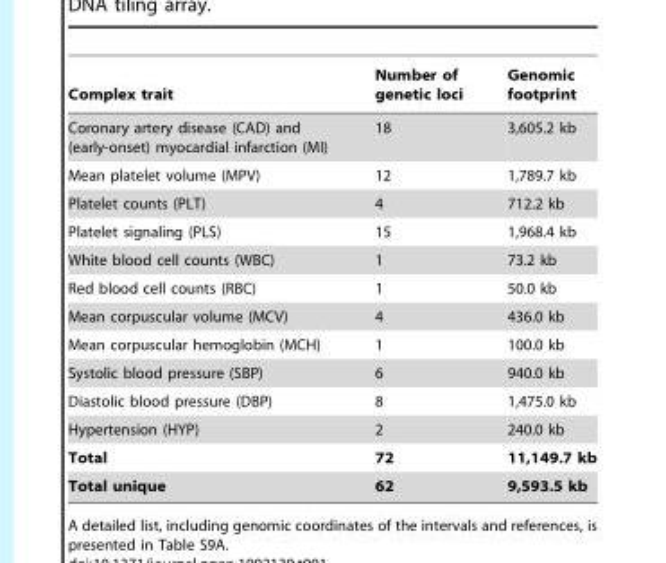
<table><thead><tr><td>Complex trait</td><td>Number of genetic loci</td><td>Genomic footprint</td></tr></thead><tbody><tr><td>Coronary artery disease (CAD) and (early-onset) myocardial infarction (MI)</td><td>18</td><td>3,605.2 kb</td></tr><tr><td>Mean platelet volume (MPV)</td><td>12</td><td>1,789.7 kb</td></tr><tr><td>Platelet counts (PLT)</td><td>4</td><td>712.2 kb</td></tr><tr><td>Platelet signaling (PLS)</td><td>15</td><td>1,968.4 kb</td></tr><tr><td>White blood cell counts (WBC)</td><td>1</td><td>73.2 kb</td></tr><tr><td>Red blood cell counts (RBC)</td><td>1</td><td>50.0 kb</td></tr><tr><td>Mean corpuscular volume (MCV)</td><td>4</td><td>436.0 kb</td></tr><tr><td>Mean corpuscular hemoglobin (MCH)</td><td>1</td><td>100.0 kb</td></tr><tr><td>Systolic blood pressure (SBP)</td><td>6</td><td>940.0 kb</td></tr><tr><td>Diastolic blood pressure (DBP)</td><td>8</td><td>1,475.0 kb</td></tr><tr><td>Hypertension (HYP)</td><td>2</td><td>240.0 kb</td></tr><tr><td>Total</td><td>72</td><td>11,149.7 kb</td></tr><tr><td>Total unique</td><td>62</td><td>9,593.5 kb</td></tr></tbody></table>